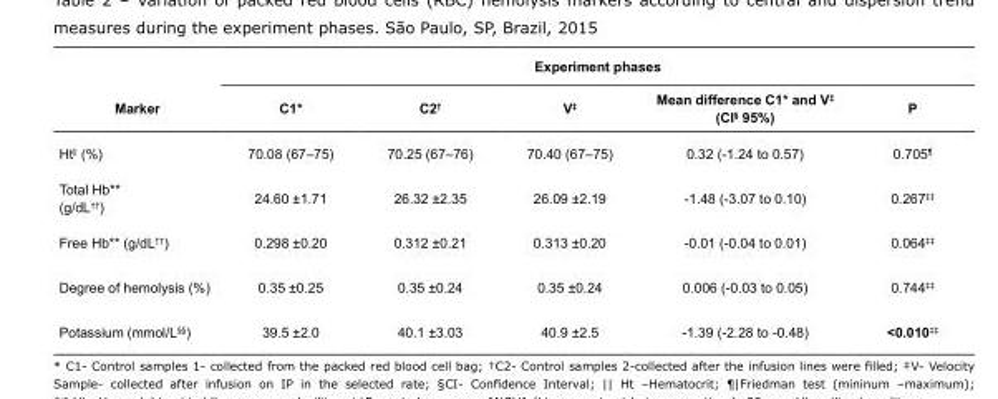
<table><thead><tr><td rowspan="2">Marker</td><td colspan="5">Experiment phases</td></tr><tr><td>C1*</td><td>C2<sup>†</sup></td><td>V<sup>‡</sup></td><td>Mean difference C1* and V<sup>‡</sup> (CI<sup>§</sup> 95%)</td><td>P</td></tr></thead><tbody><tr><td>Ht<sup>||</sup> (%)</td><td>70.08 (67–75)</td><td>70.25 (67–76)</td><td>70.40 (67–75)</td><td>0.32 (-1.24 to 0.57)</td><td>0.705<sup>¶</sup></td></tr><tr><td>Total Hb** (g/dL<sup>††</sup>)</td><td>24.60 ±1.71</td><td>26.32 ±2.35</td><td>26.09 ±2.19</td><td>-1.48 (-3.07 to 0.10)</td><td>0.267<sup>‡‡</sup></td></tr><tr><td>Free Hb** (g/dL<sup>††</sup>)</td><td>0.298 ±0.20</td><td>0.312 ±0.21</td><td>0.313 ±0.20</td><td>-0.01 (-0.04 to 0.01)</td><td>0.064<sup>‡‡</sup></td></tr><tr><td>Degree of hemolysis (%)</td><td>0.35 ±0.25</td><td>0.35 ±0.24</td><td>0.35 ±0.24</td><td>0.006 (-0.03 to 0.05)</td><td>0.744<sup>‡‡</sup></td></tr><tr><td>Potassium (mmol/L<sup>§§</sup>)</td><td>39.5 ±2.0</td><td>40.1 ±3.03</td><td>40.9 ±2.5</td><td>-1.39 (-2.28 to -0.48)</td><td>&lt;0.010<sup>‡‡</sup></td></tr></tbody></table>